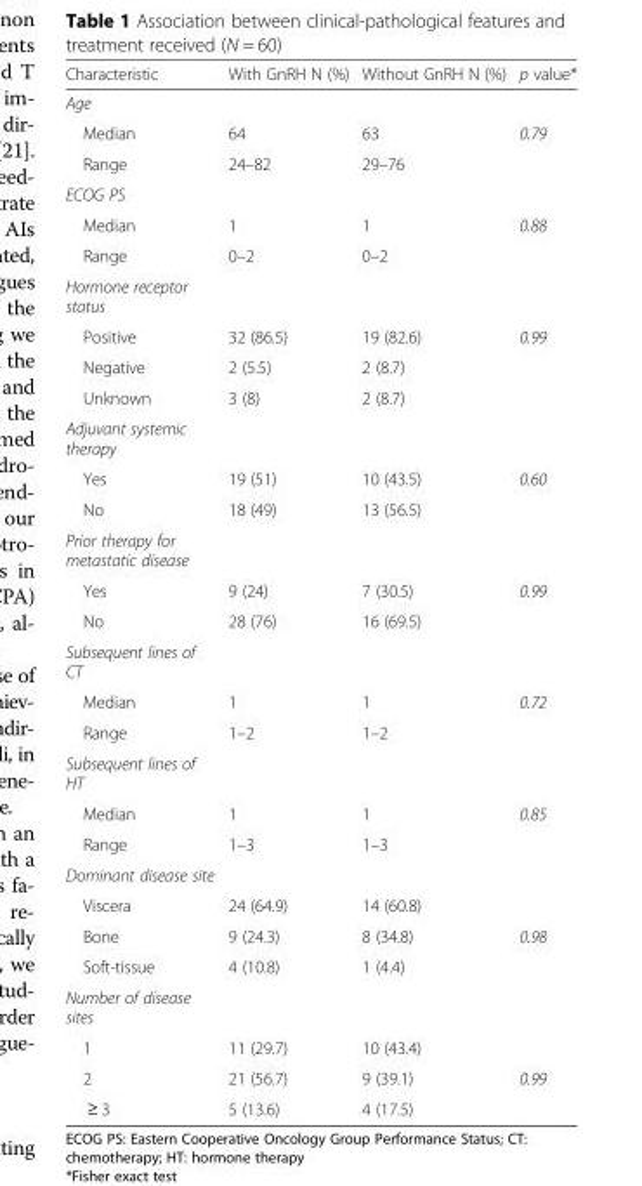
<table><thead><tr><td>Characteristic</td><td>With GnRH N (%)</td><td>Without GnRH N (%)</td><td>p value*</td></tr></thead><tbody><tr><td colspan="4">Age</td></tr><tr><td>Median</td><td>64</td><td>63</td><td>0.79</td></tr><tr><td>Range</td><td>24–82</td><td>29–76</td><td></td></tr><tr><td colspan="4">ECOG PS</td></tr><tr><td>Median</td><td>1</td><td>1</td><td>0.88</td></tr><tr><td>Range</td><td>0–2</td><td>0–2</td><td></td></tr><tr><td colspan="4">Hormone receptor status</td></tr><tr><td>Positive</td><td>32 (86.5)</td><td>19 (82.6)</td><td>0.99</td></tr><tr><td>Negative</td><td>2 (5.5)</td><td>2 (8.7)</td><td></td></tr><tr><td>Unknown</td><td>3 (8)</td><td>2 (8.7)</td><td></td></tr><tr><td colspan="4">Adjuvant systemic therapy</td></tr><tr><td>Yes</td><td>19 (51)</td><td>10 (43.5)</td><td>0.60</td></tr><tr><td>No</td><td>18 (49)</td><td>13 (56.5)</td><td></td></tr><tr><td colspan="4">Prior therapy for metastatic disease</td></tr><tr><td>Yes</td><td>9 (24)</td><td>7 (30.5)</td><td>0.99</td></tr><tr><td>No</td><td>28 (76)</td><td>16 (69.5)</td><td></td></tr><tr><td colspan="4">Subsequent lines of CT</td></tr><tr><td>Median</td><td>1</td><td>1</td><td>0.72</td></tr><tr><td>Range</td><td>1–2</td><td>1–2</td><td></td></tr><tr><td colspan="4">Subsequent lines of HT</td></tr><tr><td>Median</td><td>1</td><td>1</td><td>0.85</td></tr><tr><td>Range</td><td>1–3</td><td>1–3</td><td></td></tr><tr><td colspan="4">Dominant disease site</td></tr><tr><td>Viscera</td><td>24 (64.9)</td><td>14 (60.8)</td><td></td></tr><tr><td>Bone</td><td>9 (24.3)</td><td>8 (34.8)</td><td>0.98</td></tr><tr><td>Soft-tissue</td><td>4 (10.8)</td><td>1 (4.4)</td><td></td></tr><tr><td colspan="4">Number of disease sites</td></tr><tr><td>1</td><td>11 (29.7)</td><td>10 (43.4)</td><td></td></tr><tr><td>2</td><td>21 (56.7)</td><td>9 (39.1)</td><td>0.99</td></tr><tr><td>≥ 3</td><td>5 (13.6)</td><td>4 (17.5)</td><td></td></tr></tbody></table>